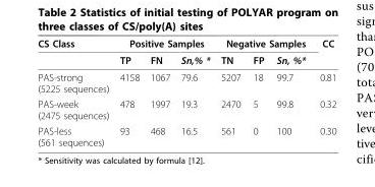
<table><thead><tr><td rowspan="2">CS Class</td><td colspan="3">Positive Samples</td><td colspan="3">Negative Samples</td><td rowspan="2">CC</td></tr><tr><td>TP</td><td>FN</td><td>Sn,% *</td><td>TN</td><td>FP</td><td>Sn, %*</td></tr></thead><tbody><tr><td>PAS-strong (5225 sequences)</td><td>4158</td><td>1067</td><td>79.6</td><td>5207</td><td>18</td><td>99.7</td><td>0.81</td></tr><tr><td>PAS-week (2475 sequences)</td><td>478</td><td>1997</td><td>19.3</td><td>2470</td><td>5</td><td>99.8</td><td>0.32</td></tr><tr><td>PAS-less (561 sequences)</td><td>93</td><td>468</td><td>16.5</td><td>561</td><td>0</td><td>100</td><td>0.30</td></tr></tbody></table>